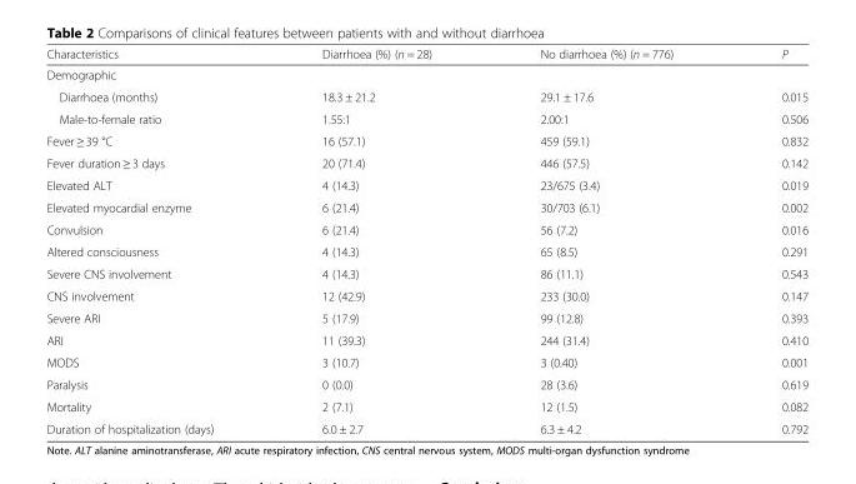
<table><thead><tr><td>Characteristics</td><td>Diarrhoea (%) (n = 28)</td><td>No diarrhoea (%) (n = 776)</td><td>P</td></tr></thead><tbody><tr><td colspan="4">Demographic</td></tr><tr><td>Diarrhoea (months)</td><td>18.3 ± 21.2</td><td>29.1 ± 17.6</td><td>0.015</td></tr><tr><td>Male-to-female ratio</td><td>1.55:1</td><td>2.00:1</td><td>0.506</td></tr><tr><td>Fever ≥ 39 °C</td><td>16 (57.1)</td><td>459 (59.1)</td><td>0.832</td></tr><tr><td>Fever duration ≥ 3 days</td><td>20 (71.4)</td><td>446 (57.5)</td><td>0.142</td></tr><tr><td>Elevated ALT</td><td>4 (14.3)</td><td>23/675 (3.4)</td><td>0.019</td></tr><tr><td>Elevated myocardial enzyme</td><td>6 (21.4)</td><td>30/703 (6.1)</td><td>0.002</td></tr><tr><td>Convulsion</td><td>6 (21.4)</td><td>56 (7.2)</td><td>0.016</td></tr><tr><td>Altered consciousness</td><td>4 (14.3)</td><td>65 (8.5)</td><td>0.291</td></tr><tr><td>Severe CNS involvement</td><td>4 (14.3)</td><td>86 (11.1)</td><td>0.543</td></tr><tr><td>CNS involvement</td><td>12 (42.9)</td><td>233 (30.0)</td><td>0.147</td></tr><tr><td>Severe ARI</td><td>5 (17.9)</td><td>99 (12.8)</td><td>0.393</td></tr><tr><td>ARI</td><td>11 (39.3)</td><td>244 (31.4)</td><td>0.410</td></tr><tr><td>MODS</td><td>3 (10.7)</td><td>3 (0.40)</td><td>0.001</td></tr><tr><td>Paralysis</td><td>0 (0.0)</td><td>28 (3.6)</td><td>0.619</td></tr><tr><td>Mortality</td><td>2 (7.1)</td><td>12 (1.5)</td><td>0.082</td></tr><tr><td>Duration of hospitalization (days)</td><td>6.0 ± 2.7</td><td>6.3 ± 4.2</td><td>0.792</td></tr></tbody></table>